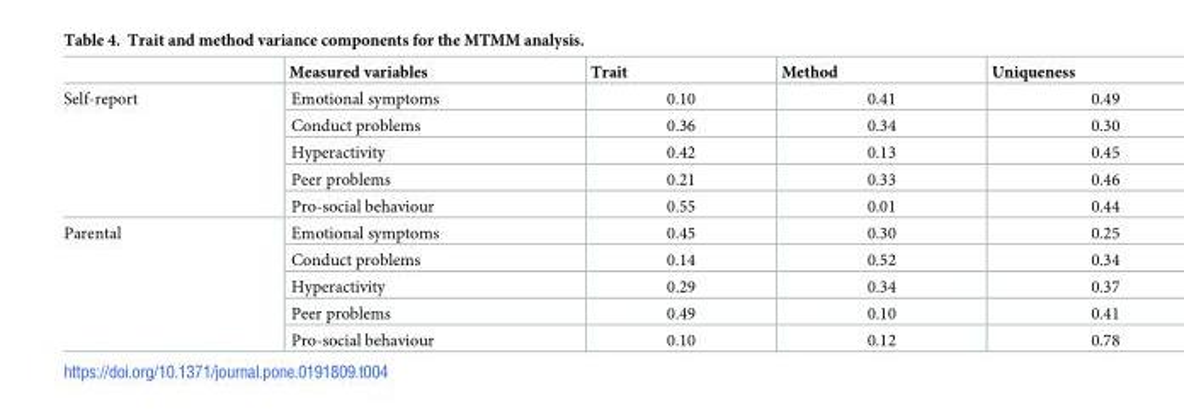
<table><thead><tr><td></td><td>Measured variables</td><td>Trait</td><td>Method</td><td>Uniqueness</td></tr></thead><tbody><tr><td rowspan="5">Self-report</td><td>Emotional symptoms</td><td>0.10</td><td>0.41</td><td>0.49</td></tr><tr><td>Conduct problems</td><td>0.36</td><td>0.34</td><td>0.30</td></tr><tr><td>Hyperactivity</td><td>0.42</td><td>0.13</td><td>0.45</td></tr><tr><td>Peer problems</td><td>0.21</td><td>0.33</td><td>0.46</td></tr><tr><td>Pro-social behaviour</td><td>0.55</td><td>0.01</td><td>0.44</td></tr><tr><td rowspan="5">Parental</td><td>Emotional symptoms</td><td>0.45</td><td>0.30</td><td>0.25</td></tr><tr><td>Conduct problems</td><td>0.14</td><td>0.52</td><td>0.34</td></tr><tr><td>Hyperactivity</td><td>0.29</td><td>0.34</td><td>0.37</td></tr><tr><td>Peer problems</td><td>0.49</td><td>0.10</td><td>0.41</td></tr><tr><td>Pro-social behaviour</td><td>0.10</td><td>0.12</td><td>0.78</td></tr></tbody></table>